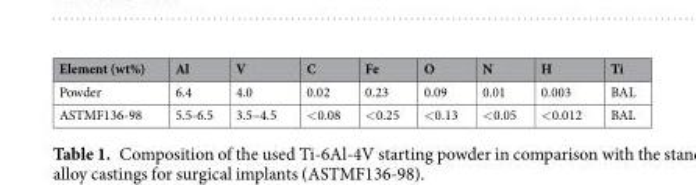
<table><thead><tr><td>Element (wt%)</td><td>Al</td><td>V</td><td>C</td><td>Fe</td><td>O</td><td>N</td><td>H</td><td>Ti</td></tr></thead><tbody><tr><td>Powder</td><td>6.4</td><td>4.0</td><td>0.02</td><td>0.23</td><td>0.09</td><td>0.01</td><td>0.003</td><td>BAL</td></tr><tr><td>ASTMF136-98</td><td>5.5-6.5</td><td>3.5–4.5</td><td>&lt;0.08</td><td>&lt;0.25</td><td>&lt;0.13</td><td>&lt;0.05</td><td>&lt;0.012</td><td>BAL</td></tr></tbody></table>